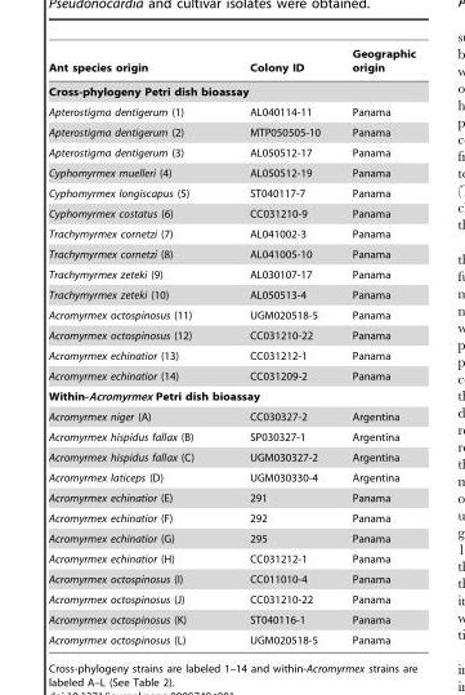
<table><thead><tr><td>Ant species origin</td><td>Colony ID</td><td>Geographic origin</td></tr></thead><tbody><tr><td colspan="3">Cross-phylogeny Petri dish bioassay</td></tr><tr><td>Apterostigma dentigerum (1)</td><td>AL040114-11</td><td>Panama</td></tr><tr><td>Apterostigma dentigerum (2)</td><td>MTP050505-10</td><td>Panama</td></tr><tr><td>Apterostigma dentigerum (3)</td><td>AL050512-17</td><td>Panama</td></tr><tr><td>Cyphomyrmex muelleri (4)</td><td>AL050512-19</td><td>Panama</td></tr><tr><td>Cyphomyrmex longiscapus (5)</td><td>ST040117-7</td><td>Panama</td></tr><tr><td>Cyphomyrmex costatus (6)</td><td>CC031210-9</td><td>Panama</td></tr><tr><td>Trachymyrmex cornetzi (7)</td><td>AL041002-3</td><td>Panama</td></tr><tr><td>Trachymyrmex cornetzi (8)</td><td>AL041005-10</td><td>Panama</td></tr><tr><td>Trachymyrmex zeteki (9)</td><td>AL030107-17</td><td>Panama</td></tr><tr><td>Trachymyrmex zeteki (10)</td><td>AL050513-4</td><td>Panama</td></tr><tr><td>Acromyrmex octospinosus (11)</td><td>UGM020518-5</td><td>Panama</td></tr><tr><td>Acromyrmex octospinosus (12)</td><td>CC031210-22</td><td>Panama</td></tr><tr><td>Acromyrmex echinatior (13)</td><td>CC031212-1</td><td>Panama</td></tr><tr><td>Acromyrmex echinatior (14)</td><td>CC031209-2</td><td>Panama</td></tr><tr><td colspan="3">Within-Acromyrmex Petri dish bioassay</td></tr><tr><td>Acromyrmex niger (A)</td><td>CC030327-2</td><td>Argentina</td></tr><tr><td>Acromyrmex hispidus fallax (B)</td><td>SP030327-1</td><td>Argentina</td></tr><tr><td>Acromyrmex hispidus fallax (C)</td><td>UGM030327-2</td><td>Argentina</td></tr><tr><td>Acromyrmex laticeps (D)</td><td>UGM030330-4</td><td>Argentina</td></tr><tr><td>Acromyrmex echinatior (E)</td><td>291</td><td>Panama</td></tr><tr><td>Acromyrmex echinatior (F)</td><td>292</td><td>Panama</td></tr><tr><td>Acromyrmex echinatior (G)</td><td>295</td><td>Panama</td></tr><tr><td>Acromyrmex echinatior (H)</td><td>CC031212-1</td><td>Panama</td></tr><tr><td>Acromyrmex octospinosus (I)</td><td>CC011010-4</td><td>Panama</td></tr><tr><td>Acromyrmex octospinosus (J)</td><td>CC031210-22</td><td>Panama</td></tr><tr><td>Acromyrmex octospinosus (K)</td><td>ST040116-1</td><td>Panama</td></tr><tr><td>Acromyrmex octospinosus (L)</td><td>UGM020518-5</td><td>Panama</td></tr></tbody></table>